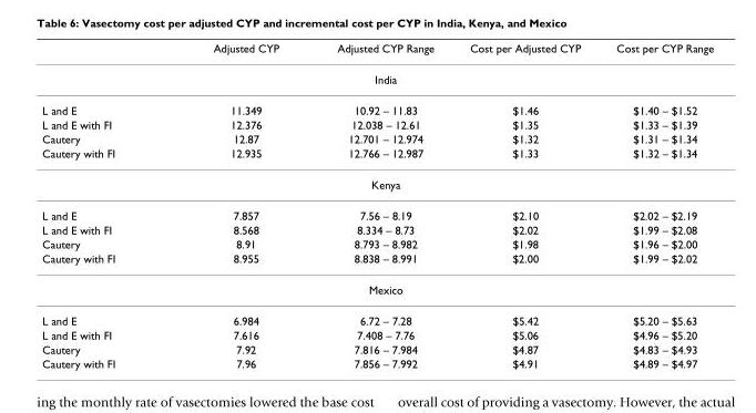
<table><thead><tr><td></td><td>Adjusted CYP</td><td>Adjusted CYP Range</td><td>Cost per Adjusted CYP</td><td>Cost per CYP Range</td></tr></thead><tbody><tr><td colspan="5">India</td></tr><tr><td>L and E</td><td>11.349</td><td>10.92 – 11.83</td><td>$1.46</td><td>$1.40 – $1.52</td></tr><tr><td>L and E with FI</td><td>12.376</td><td>12.038 – 12.61</td><td>$1.35</td><td>$1.33 – $1.39</td></tr><tr><td>Cautery</td><td>12.87</td><td>12.701 – 12.974</td><td>$1.32</td><td>$1.31 – $1.34</td></tr><tr><td>Cautery with FI</td><td>12.935</td><td>12.766 – 12.987</td><td>$1.33</td><td>$1.32 – $1.34</td></tr><tr><td colspan="5">Kenya</td></tr><tr><td>L and E</td><td>7.857</td><td>7.56 – 8.19</td><td>$2.10</td><td>$2.02 – $2.19</td></tr><tr><td>L and E with FI</td><td>8.568</td><td>8.334 – 8.73</td><td>$2.02</td><td>$1.99 – $2.08</td></tr><tr><td>Cautery</td><td>8.91</td><td>8.793 – 8.982</td><td>$1.98</td><td>$1.96 – $2.00</td></tr><tr><td>Cautery with FI</td><td>8.955</td><td>8.838 – 8.991</td><td>$2.00</td><td>$1.99 – $2.02</td></tr><tr><td colspan="5">Mexico</td></tr><tr><td>L and E</td><td>6.984</td><td>6.72 – 7.28</td><td>$5.42</td><td>$5.20 – $5.63</td></tr><tr><td>L and E with FI</td><td>7.616</td><td>7.408 – 7.76</td><td>$5.06</td><td>$4.96 – $5.20</td></tr><tr><td>Cautery</td><td>7.92</td><td>7.816 – 7.984</td><td>$4.87</td><td>$4.83 – $4.93</td></tr><tr><td>Cautery with FI</td><td>7.96</td><td>7.856 – 7.992</td><td>$4.91</td><td>$4.89 – $4.97</td></tr></tbody></table>